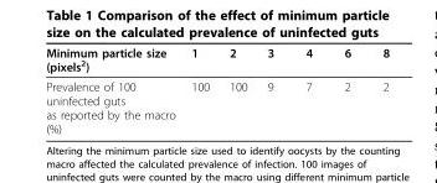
<table><thead><tr><td>Minimum particle size (pixels<sup>2</sup>)</td><td>1</td><td>2</td><td>3</td><td>4</td><td>6</td><td>8</td></tr></thead><tbody><tr><td>Prevalence of 100 uninfected guts as reported by the macro (%)</td><td>100</td><td>100</td><td>9</td><td>7</td><td>2</td><td>2</td></tr></tbody></table>